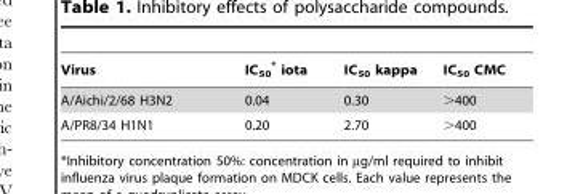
<table><thead><tr><td>Virus</td><td>IC<sub>50</sub> * iota</td><td>IC<sub>50</sub> kappa</td><td>IC<sub>50</sub> CMC</td></tr></thead><tbody><tr><td>A/Aichi/2/68 H3N2</td><td>0.04</td><td>0.30</td><td>&gt;400</td></tr><tr><td>A/PR8/34 H1N1</td><td>0.20</td><td>2.70</td><td>&gt;400</td></tr></tbody></table>